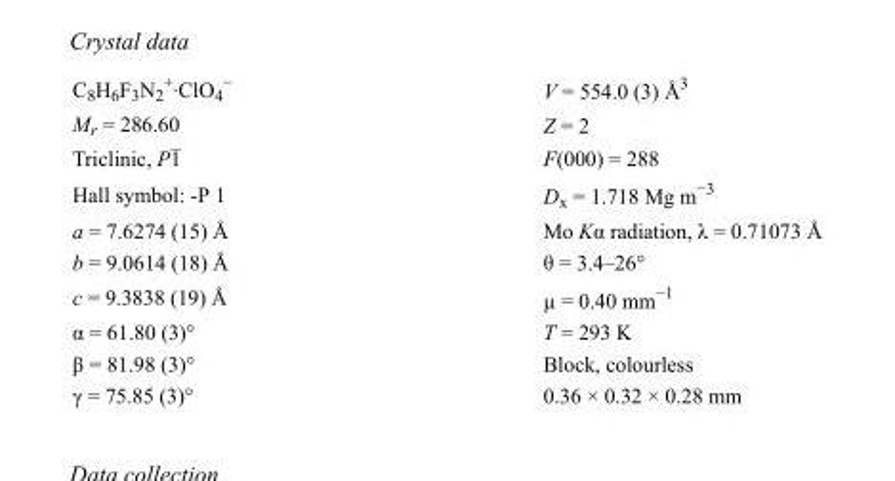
<table><tbody><tr><td>C<sub>8</sub>H<sub>6</sub>F<sub>3</sub>N<sub>2</sub> <sup>+</sup>·ClO<sub>4</sub> <sup>−</sup></td><td>V = 554.0 (3) Å<sup>3</sup></td></tr><tr><td>M<sub>r</sub> = 286.60</td><td>Z = 2</td></tr><tr><td>Triclinic, P1</td><td>F(000) = 288</td></tr><tr><td>Hall symbol: -P 1</td><td>D<sub>x</sub> = 1.718 Mg m<sup>−3</sup></td></tr><tr><td>a = 7.6274 (15) Å</td><td>Mo Kα radiation, λ = 0.71073 Å</td></tr><tr><td>b = 9.0614 (18) Å</td><td>θ = 3.4–26°</td></tr><tr><td>c = 9.3838 (19) Å</td><td>µ = 0.40 mm<sup>−1</sup></td></tr><tr><td>α = 61.80 (3)°</td><td>T = 293 K</td></tr><tr><td>β = 81.98 (3)°</td><td>Block, colourless</td></tr><tr><td>γ = 75.85 (3)°</td><td>0.36 × 0.32 × 0.28 mm</td></tr></tbody></table>